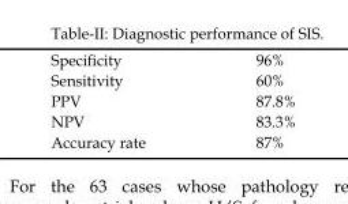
<table><tbody><tr><td>Specificity</td><td>96%</td></tr><tr><td>Sensitivity</td><td>60%</td></tr><tr><td>PPV</td><td>87.8%</td></tr><tr><td>NPV</td><td>83.3%</td></tr><tr><td>Accuracy rate</td><td>87%</td></tr></tbody></table>